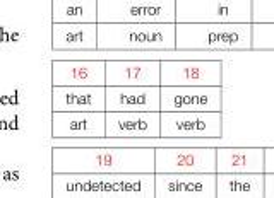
<table><tbody><tr><td>16</td><td>17</td><td>18</td></tr><tr><td>that</td><td>had</td><td>gone</td></tr><tr><td>art</td><td>verb</td><td>verb</td></tr></tbody></table>